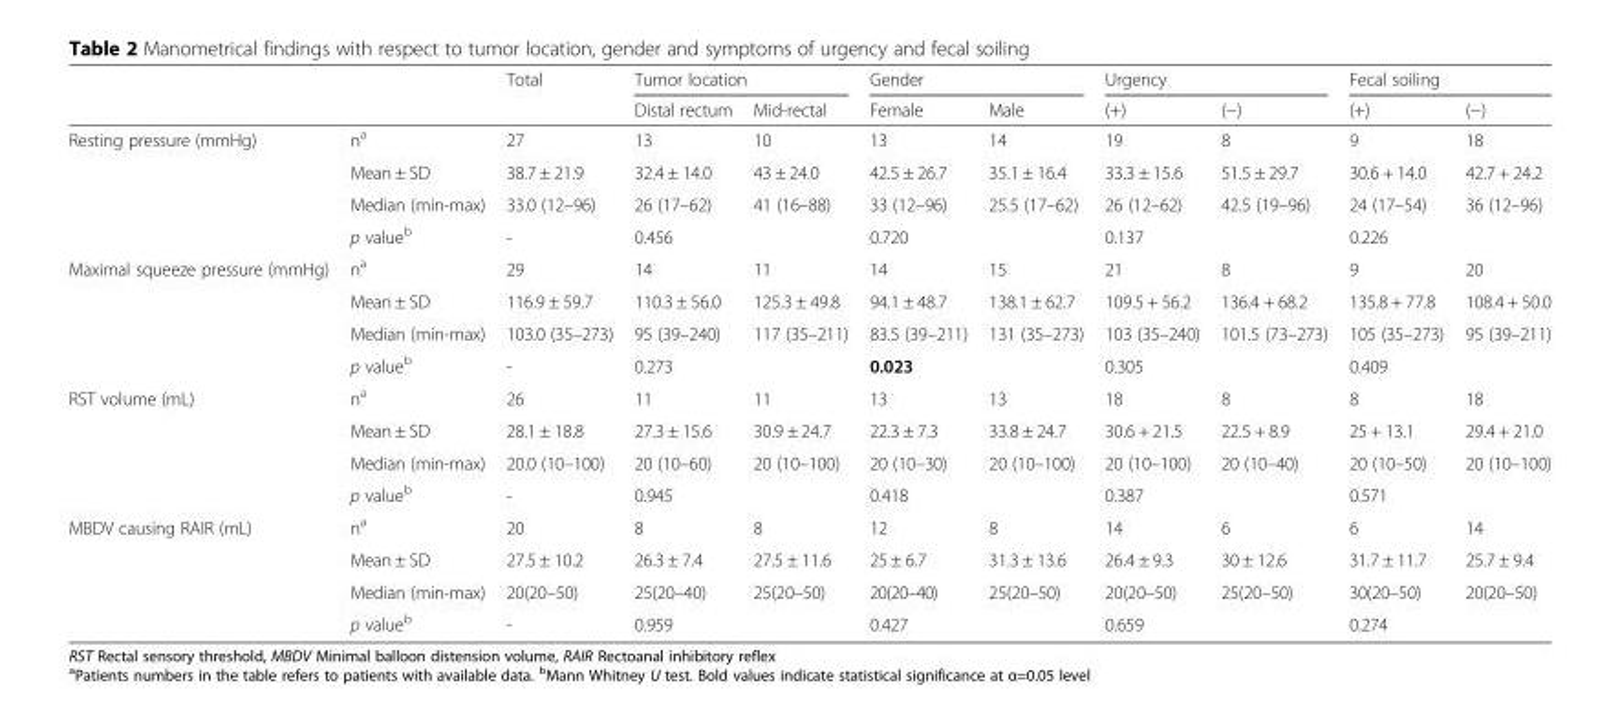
<table><thead><tr><td rowspan="2"></td><td rowspan="2"></td><td rowspan="2">Total</td><td colspan="2">Tumor location</td><td colspan="2">Gender</td><td colspan="2">Urgency</td><td colspan="2">Fecal soiling</td></tr><tr><td>Distal rectum</td><td>Mid-rectal</td><td>Female</td><td>Male</td><td>(+)</td><td>(−)</td><td>(+)</td><td>(−)</td></tr></thead><tbody><tr><td rowspan="4">Resting pressure (mmHg)</td><td>n<sup>a</sup></td><td>27</td><td>13</td><td>10</td><td>13</td><td>14</td><td>19</td><td>8</td><td>9</td><td>18</td></tr><tr><td>Mean ± SD</td><td>38.7 ± 21.9</td><td>32.4 ± 14.0</td><td>43 ± 24.0</td><td>42.5 ± 26.7</td><td>35.1 ± 16.4</td><td>33.3 ± 15.6</td><td>51.5 ± 29.7</td><td>30.6 + 14.0</td><td>42.7 + 24.2</td></tr><tr><td>Median (min-max)</td><td>33.0 (12–96)</td><td>26 (17–62)</td><td>41 (16–88)</td><td>33 (12–96)</td><td>25.5 (17–62)</td><td>26 (12–62)</td><td>42.5 (19–96)</td><td>24 (17–54)</td><td>36 (12–96)</td></tr><tr><td>p value<sup>b</sup></td><td>-</td><td colspan="2">0.456</td><td colspan="2">0.720</td><td colspan="2">0.137</td><td colspan="2">0.226</td></tr><tr><td rowspan="4">Maximal squeeze pressure (mmHg)</td><td>n<sup>a</sup></td><td>29</td><td>14</td><td>11</td><td>14</td><td>15</td><td>21</td><td>8</td><td>9</td><td>20</td></tr><tr><td>Mean ± SD</td><td>116.9 ± 59.7</td><td>110.3 ± 56.0</td><td>125.3 ± 49.8</td><td>94.1 ± 48.7</td><td>138.1 ± 62.7</td><td>109.5 + 56.2</td><td>136.4 + 68.2</td><td>135.8 + 77.8</td><td>108.4 + 50.0</td></tr><tr><td>Median (min-max)</td><td>103.0 (35–273)</td><td>95 (39–240)</td><td>117 (35–211)</td><td>83.5 (39–211)</td><td>131 (35–273)</td><td>103 (35–240)</td><td>101.5 (73–273)</td><td>105 (35–273)</td><td>95 (39–211)</td></tr><tr><td>p value<sup>b</sup></td><td>-</td><td colspan="2">0.273</td><td colspan="2">0.023</td><td colspan="2">0.305</td><td colspan="2">0.409</td></tr><tr><td rowspan="4">RST volume (mL)</td><td>n<sup>a</sup></td><td>26</td><td>11</td><td>11</td><td>13</td><td>13</td><td>18</td><td>8</td><td>8</td><td>18</td></tr><tr><td>Mean ± SD</td><td>28.1 ± 18.8</td><td>27.3 ± 15.6</td><td>30.9 ± 24.7</td><td>22.3 ± 7.3</td><td>33.8 ± 24.7</td><td>30.6 + 21.5</td><td>22.5 + 8.9</td><td>25 + 13.1</td><td>29.4 + 21.0</td></tr><tr><td>Median (min-max)</td><td>20.0 (10–100)</td><td>20 (10–60)</td><td>20 (10–100)</td><td>20 (10–30)</td><td>20 (10–100)</td><td>20 (10–100)</td><td>20 (10–40)</td><td>20 (10–50)</td><td>20 (10–100)</td></tr><tr><td>p value<sup>b</sup></td><td>-</td><td colspan="2">0.945</td><td colspan="2">0.418</td><td colspan="2">0.387</td><td colspan="2">0.571</td></tr><tr><td rowspan="4">MBDV causing RAIR (mL)</td><td>n<sup>a</sup></td><td>20</td><td>8</td><td>8</td><td>12</td><td>8</td><td>14</td><td>6</td><td>6</td><td>14</td></tr><tr><td>Mean ± SD</td><td>27.5 ± 10.2</td><td>26.3 ± 7.4</td><td>27.5 ± 11.6</td><td>25 ± 6.7</td><td>31.3 ± 13.6</td><td>26.4 ± 9.3</td><td>30 ± 12.6</td><td>31.7 ± 11.7</td><td>25.7 ± 9.4</td></tr><tr><td>Median (min-max)</td><td>20(20–50)</td><td>25(20–40)</td><td>25(20–50)</td><td>20(20–40)</td><td>25(20–50)</td><td>20(20–50)</td><td>25(20–50)</td><td>30(20–50)</td><td>20(20–50)</td></tr><tr><td>p value<sup>b</sup></td><td>-</td><td colspan="2">0.959</td><td colspan="2">0.427</td><td colspan="2">0.659</td><td colspan="2">0.274</td></tr></tbody></table>